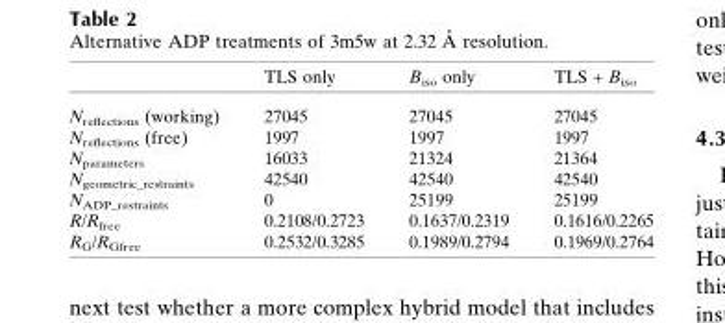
<table><thead><tr><td></td><td>TLS only</td><td>B<sub>iso</sub> only</td><td>TLS + B<sub>iso</sub></td></tr></thead><tbody><tr><td>N<sub>reflections</sub> (working)</td><td>27045</td><td>27045</td><td>27045</td></tr><tr><td>N<sub>reflections</sub> (free)</td><td>1997</td><td>1997</td><td>1997</td></tr><tr><td>N<sub>parameters</sub></td><td>16033</td><td>21324</td><td>21364</td></tr><tr><td>N<sub>geometric_restraints</sub></td><td>42540</td><td>42540</td><td>42540</td></tr><tr><td>N<sub>ADP_restraints</sub></td><td>0</td><td>25199</td><td>25199</td></tr><tr><td>R/R<sub>free</sub></td><td>0.2108/0.2723</td><td>0.1637/0.2319</td><td>0.1616/0.2265</td></tr><tr><td>R<sub>G</sub>/R<sub>Gfree</sub></td><td>0.2532/0.3285</td><td>0.1989/0.2794</td><td>0.1969/0.2764</td></tr></tbody></table>